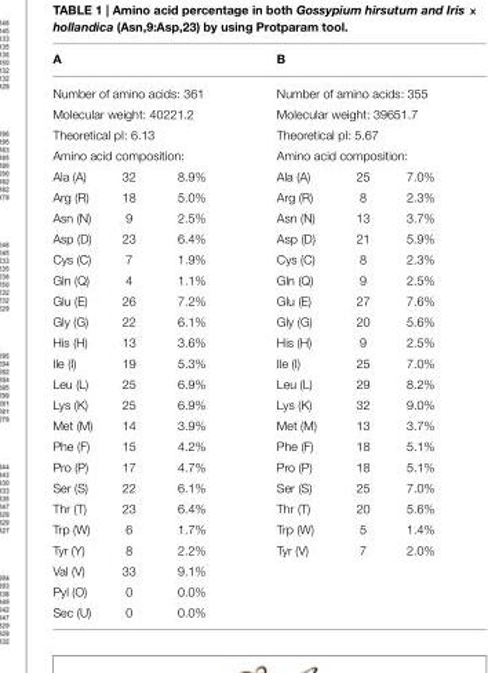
<table><thead><tr><td colspan="3">A</td><td colspan="3">B</td></tr></thead><tbody><tr><td colspan="3">Number of amino acids: 361</td><td colspan="3">Number of amino acids: 355</td></tr><tr><td colspan="3">Molecular weight: 40221.2</td><td colspan="3">Molecular weight: 39651.7</td></tr><tr><td colspan="3">Theoretical pI: 6.13</td><td colspan="3">Theoretical pI: 5.67</td></tr><tr><td colspan="3">Amino acid composition:</td><td colspan="3">Amino acid composition:</td></tr><tr><td>Ala (A)</td><td>32</td><td>8.9%</td><td>Ala (A)</td><td>25</td><td>7.0%</td></tr><tr><td>Arg (R)</td><td>18</td><td>5.0%</td><td>Arg (R)</td><td>8</td><td>2.3%</td></tr><tr><td>Asn (N)</td><td>9</td><td>2.5%</td><td>Asn (N)</td><td>13</td><td>3.7%</td></tr><tr><td>Asp (D)</td><td>23</td><td>6.4%</td><td>Asp (D)</td><td>21</td><td>5.9%</td></tr><tr><td>Cys (C)</td><td>7</td><td>1.9%</td><td>Cys (C)</td><td>8</td><td>2.3%</td></tr><tr><td>Gln (Q)</td><td>4</td><td>1.1%</td><td>Gln (Q)</td><td>9</td><td>2.5%</td></tr><tr><td>Glu (E)</td><td>26</td><td>7.2%</td><td>Glu (E)</td><td>27</td><td>7.6%</td></tr><tr><td>Gly (G)</td><td>22</td><td>6.1%</td><td>Gly (G)</td><td>20</td><td>5.6%</td></tr><tr><td>His (H)</td><td>13</td><td>3.6%</td><td>His (H)</td><td>9</td><td>2.5%</td></tr><tr><td>Ile (I)</td><td>19</td><td>5.3%</td><td>Ile (I)</td><td>25</td><td>7.0%</td></tr><tr><td>Leu (L)</td><td>25</td><td>6.9%</td><td>Leu (L)</td><td>29</td><td>8.2%</td></tr><tr><td>Lys (K)</td><td>25</td><td>6.9%</td><td>Lys (K)</td><td>32</td><td>9.0%</td></tr><tr><td>Met (M)</td><td>14</td><td>3.9%</td><td>Met (M)</td><td>13</td><td>3.7%</td></tr><tr><td>Phe (F)</td><td>15</td><td>4.2%</td><td>Phe (F)</td><td>18</td><td>5.1%</td></tr><tr><td>Pro (P)</td><td>17</td><td>4.7%</td><td>Pro (P)</td><td>18</td><td>5.1%</td></tr><tr><td>Ser (S)</td><td>22</td><td>6.1%</td><td>Ser (S)</td><td>25</td><td>7.0%</td></tr><tr><td>Thr (T)</td><td>23</td><td>6.4%</td><td>Thr (T)</td><td>20</td><td>5.6%</td></tr><tr><td>Trp (W)</td><td>6</td><td>1.7%</td><td>Trp (W)</td><td>5</td><td>1.4%</td></tr><tr><td>Tyr (Y)</td><td>8</td><td>2.2%</td><td>Tyr (V)</td><td>7</td><td>2.0%</td></tr><tr><td>Val (V)</td><td>33</td><td>9.1%</td><td></td><td></td><td></td></tr><tr><td>Pyl (O)</td><td>0</td><td>0.0%</td><td></td><td></td><td></td></tr><tr><td>Sec (U)</td><td>0</td><td>0.0%</td><td></td><td></td><td></td></tr></tbody></table>